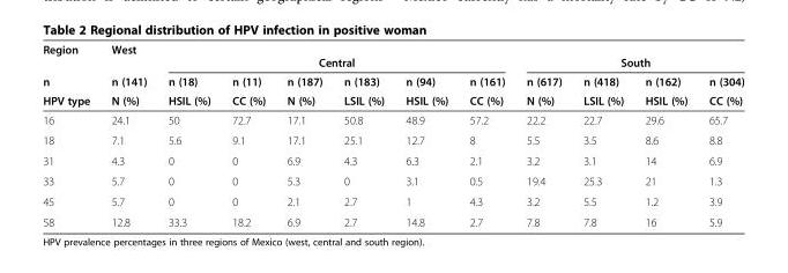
<table><thead><tr><td rowspan="3">Region n HPV type</td><td rowspan="3">West n (141) N (%)</td><td colspan="6">Central</td><td colspan="4">South</td></tr><tr><td rowspan="2">n (18) HSIL (%)</td><td rowspan="2">n (11) CC (%)</td><td rowspan="2">n (187) N (%)</td><td rowspan="2">n (183) LSIL (%)</td><td rowspan="2">n (94) HSIL (%)</td><td rowspan="2">n (161) CC (%)</td><td rowspan="2">n (617) N (%)</td><td rowspan="2">n (418) LSIL (%)</td><td rowspan="2">n (162) HSIL (%)</td><td rowspan="2">n (304) CC (%)</td></tr><tr></tr></thead><tbody><tr><td>16</td><td>24.1</td><td>50</td><td>72.7</td><td>17.1</td><td>50.8</td><td>48.9</td><td>57.2</td><td>22.2</td><td>22.7</td><td>29.6</td><td>65.7</td></tr><tr><td>18</td><td>7.1</td><td>5.6</td><td>9.1</td><td>17.1</td><td>25.1</td><td>12.7</td><td>8</td><td>5.5</td><td>3.5</td><td>8.6</td><td>8.8</td></tr><tr><td>31</td><td>4.3</td><td>0</td><td>0</td><td>6.9</td><td>4.3</td><td>6.3</td><td>2.1</td><td>3.2</td><td>3.1</td><td>14</td><td>6.9</td></tr><tr><td>33</td><td>5.7</td><td>0</td><td>0</td><td>5.3</td><td>0</td><td>3.1</td><td>0.5</td><td>19.4</td><td>25.3</td><td>21</td><td>1.3</td></tr><tr><td>45</td><td>5.7</td><td>0</td><td>0</td><td>2.1</td><td>2.7</td><td>1</td><td>4.3</td><td>3.2</td><td>5.5</td><td>1.2</td><td>3.9</td></tr><tr><td>58</td><td>12.8</td><td>33.3</td><td>18.2</td><td>6.9</td><td>2.7</td><td>14.8</td><td>2.7</td><td>7.8</td><td>7.8</td><td>16</td><td>5.9</td></tr></tbody></table>